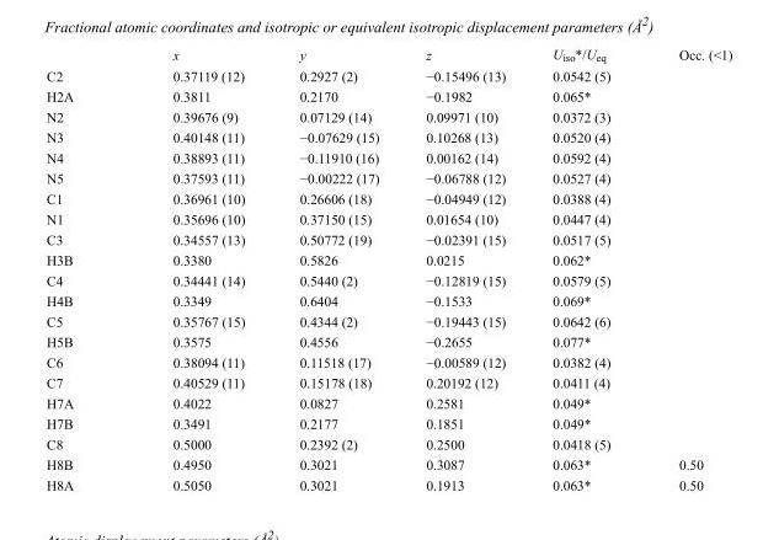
<table><thead><tr><td></td><td>x</td><td>y</td><td>z</td><td>U<sub>iso</sub>*/U<sub>eq</sub></td><td>Occ. (&lt;1)</td></tr></thead><tbody><tr><td>C2</td><td>0.37119 (12)</td><td>0.2927 (2)</td><td>−0.15496 (13)</td><td>0.0542 (5)</td><td></td></tr><tr><td>H2A</td><td>0.3811</td><td>0.2170</td><td>−0.1982</td><td>0.065*</td><td></td></tr><tr><td>N2</td><td>0.39676 (9)</td><td>0.07129 (14)</td><td>0.09971 (10)</td><td>0.0372 (3)</td><td></td></tr><tr><td>N3</td><td>0.40148 (11)</td><td>−0.07629 (15)</td><td>0.10268 (13)</td><td>0.0520 (4)</td><td></td></tr><tr><td>N4</td><td>0.38893 (11)</td><td>−0.11910 (16)</td><td>0.00162 (14)</td><td>0.0592 (4)</td><td></td></tr><tr><td>N5</td><td>0.37593 (11)</td><td>−0.00222 (17)</td><td>−0.06788 (12)</td><td>0.0527 (4)</td><td></td></tr><tr><td>C1</td><td>0.36961 (10)</td><td>0.26606 (18)</td><td>−0.04949 (12)</td><td>0.0388 (4)</td><td></td></tr><tr><td>N1</td><td>0.35696 (10)</td><td>0.37150 (15)</td><td>0.01654 (10)</td><td>0.0447 (4)</td><td></td></tr><tr><td>C3</td><td>0.34557 (13)</td><td>0.50772 (19)</td><td>−0.02391 (15)</td><td>0.0517 (5)</td><td></td></tr><tr><td>H3B</td><td>0.3380</td><td>0.5826</td><td>0.0215</td><td>0.062*</td><td></td></tr><tr><td>C4</td><td>0.34441 (14)</td><td>0.5440 (2)</td><td>−0.12819 (15)</td><td>0.0579 (5)</td><td></td></tr><tr><td>H4B</td><td>0.3349</td><td>0.6404</td><td>−0.1533</td><td>0.069*</td><td></td></tr><tr><td>C5</td><td>0.35767 (15)</td><td>0.4344 (2)</td><td>−0.19443 (15)</td><td>0.0642 (6)</td><td></td></tr><tr><td>H5B</td><td>0.3575</td><td>0.4556</td><td>−0.2655</td><td>0.077*</td><td></td></tr><tr><td>C6</td><td>0.38094 (11)</td><td>0.11518 (17)</td><td>−0.00589 (12)</td><td>0.0382 (4)</td><td></td></tr><tr><td>C7</td><td>0.40529 (11)</td><td>0.15178 (18)</td><td>0.20192 (12)</td><td>0.0411 (4)</td><td></td></tr><tr><td>H7A</td><td>0.4022</td><td>0.0827</td><td>0.2581</td><td>0.049*</td><td></td></tr><tr><td>H7B</td><td>0.3491</td><td>0.2177</td><td>0.1851</td><td>0.049*</td><td></td></tr><tr><td>C8</td><td>0.5000</td><td>0.2392 (2)</td><td>0.2500</td><td>0.0418 (5)</td><td></td></tr><tr><td>H8B</td><td>0.4950</td><td>0.3021</td><td>0.3087</td><td>0.063*</td><td>0.50</td></tr><tr><td>H8A</td><td>0.5050</td><td>0.3021</td><td>0.1913</td><td>0.063*</td><td>0.50</td></tr></tbody></table>